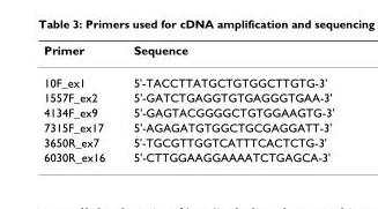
<table><thead><tr><td>Primer</td><td>Sequence</td></tr></thead><tbody><tr><td>10F_ex1</td><td>5&#x27;-TACCTTATGCTGTGGCTTGTG-3&#x27;</td></tr><tr><td>1557F_ex2</td><td>5&#x27;-GATCTGAGGTGTGAGGGTGAA-3&#x27;</td></tr><tr><td>4134F_ex9</td><td>5&#x27;-GAGTACGGGGCTGTGGAAGTG-3&#x27;</td></tr><tr><td>7315F_ex17</td><td>5&#x27;-AGAGATGTGGCTGCGAGGATT-3&#x27;</td></tr><tr><td>3650R_ex7</td><td>5&#x27;-TGCGTTGGTCATTTCACTCTG-3&#x27;</td></tr><tr><td>6030R_ex16</td><td>5&#x27;-CTTGGAAGGAAAATCTGAGCA-3&#x27;</td></tr></tbody></table>